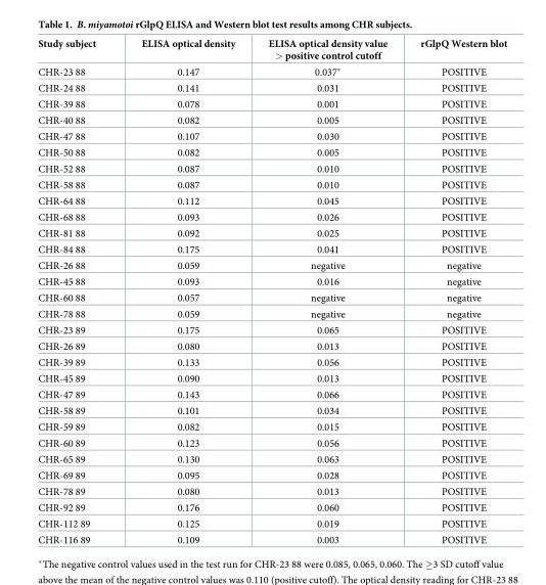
<table><thead><tr><td>Study subject</td><td>ELISA optical density</td><td>ELISA optical density value &gt; positive control cutoff</td><td>rGlpQ Western blot</td></tr></thead><tbody><tr><td>CHR-23 88</td><td>0.147</td><td>0.037*</td><td>POSITIVE</td></tr><tr><td>CHR-24 88</td><td>0.141</td><td>0.031</td><td>POSITIVE</td></tr><tr><td>CHR-39 88</td><td>0.078</td><td>0.001</td><td>POSITIVE</td></tr><tr><td>CHR-40 88</td><td>0.082</td><td>0.005</td><td>POSITIVE</td></tr><tr><td>CHR-47 88</td><td>0.107</td><td>0.030</td><td>POSITIVE</td></tr><tr><td>CHR-50 88</td><td>0.082</td><td>0.005</td><td>POSITIVE</td></tr><tr><td>CHR-52 88</td><td>0.087</td><td>0.010</td><td>POSITIVE</td></tr><tr><td>CHR-58 88</td><td>0.087</td><td>0.010</td><td>POSITIVE</td></tr><tr><td>CHR-64 88</td><td>0.112</td><td>0.045</td><td>POSITIVE</td></tr><tr><td>CHR-68 88</td><td>0.093</td><td>0.026</td><td>POSITIVE</td></tr><tr><td>CHR-81 88</td><td>0.092</td><td>0.025</td><td>POSITIVE</td></tr><tr><td>CHR-84 88</td><td>0.175</td><td>0.041</td><td>POSITIVE</td></tr><tr><td>CHR-26 88</td><td>0.059</td><td>negative</td><td>negative</td></tr><tr><td>CHR-45 88</td><td>0.093</td><td>0.016</td><td>negative</td></tr><tr><td>CHR-60 88</td><td>0.057</td><td>negative</td><td>negative</td></tr><tr><td>CHR-78 88</td><td>0.059</td><td>negative</td><td>negative</td></tr><tr><td>CHR-23 89</td><td>0.175</td><td>0.065</td><td>POSITIVE</td></tr><tr><td>CHR-26 89</td><td>0.080</td><td>0.013</td><td>POSITIVE</td></tr><tr><td>CHR-39 89</td><td>0.133</td><td>0.056</td><td>POSITIVE</td></tr><tr><td>CHR-45 89</td><td>0.090</td><td>0.013</td><td>POSITIVE</td></tr><tr><td>CHR-47 89</td><td>0.143</td><td>0.066</td><td>POSITIVE</td></tr><tr><td>CHR-58 89</td><td>0.101</td><td>0.034</td><td>POSITIVE</td></tr><tr><td>CHR-59 89</td><td>0.082</td><td>0.015</td><td>POSITIVE</td></tr><tr><td>CHR-60 89</td><td>0.123</td><td>0.056</td><td>POSITIVE</td></tr><tr><td>CHR-65 89</td><td>0.130</td><td>0.063</td><td>POSITIVE</td></tr><tr><td>CHR-69 89</td><td>0.095</td><td>0.028</td><td>POSITIVE</td></tr><tr><td>CHR-78 89</td><td>0.080</td><td>0.013</td><td>POSITIVE</td></tr><tr><td>CHR-92 89</td><td>0.176</td><td>0.060</td><td>POSITIVE</td></tr><tr><td>CHR-112 89</td><td>0.125</td><td>0.019</td><td>POSITIVE</td></tr><tr><td>CHR-116 89</td><td>0.109</td><td>0.003</td><td>POSITIVE</td></tr></tbody></table>